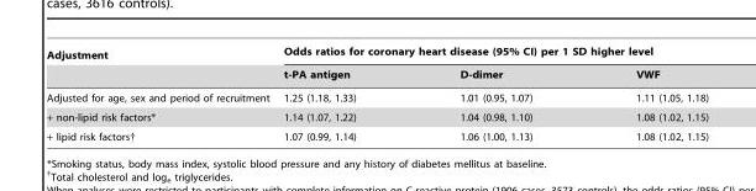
<table><thead><tr><td rowspan="2">Adjustment</td><td colspan="3">Odds ratios for coronary heart disease (95% CI) per 1 SD higher level</td></tr><tr><td>t-PA antigen</td><td>D-dimer</td><td>VWF</td></tr></thead><tbody><tr><td>Adjusted for age, sex and period of recruitment</td><td>1.25 (1.18, 1.33)</td><td>1.01 (0.95, 1.07)</td><td>1.11 (1.05, 1.18)</td></tr><tr><td>+ non-lipid risk factors*</td><td>1.14 (1.07, 1.22)</td><td>1.04 (0.98, 1.10)</td><td>1.08 (1.02, 1.15)</td></tr><tr><td>+ lipid risk factors†</td><td>1.07 (0.99, 1.14)</td><td>1.06 (1.00, 1.13)</td><td>1.08 (1.02, 1.15)</td></tr></tbody></table>